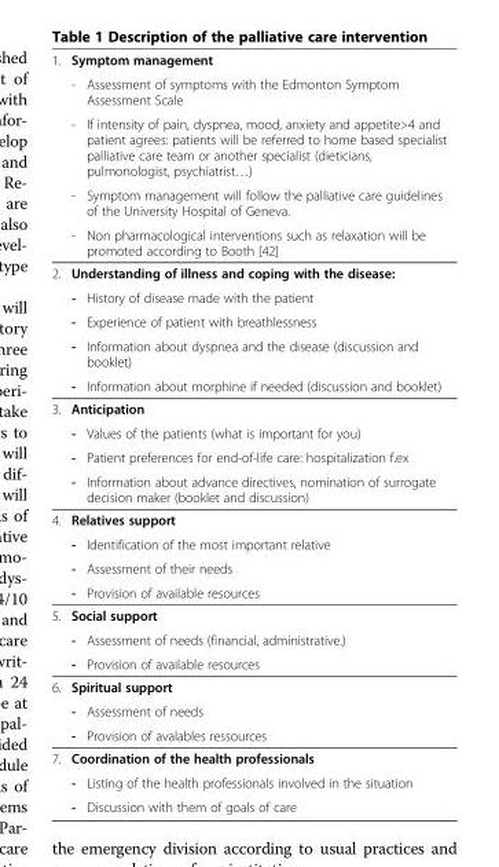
<table><tbody><tr><td rowspan="5">1.</td><td>Symptom management</td></tr><tr><td>- Assessment of symptoms with the Edmonton Symptom Assessment Scale</td></tr><tr><td>- If intensity of pain, dyspnea, mood, anxiety and appetite&gt;4 and patient agrees: patients will be referred to home based specialist palliative care team or another specialist (dieticians, pulmonologist, psychiatrist…)</td></tr><tr><td>- Symptom management will follow the palliative care guidelines of the University Hospital of Geneva.</td></tr><tr><td>- Non pharmacological interventions such as relaxation will be promoted according to Booth [42]</td></tr><tr><td rowspan="5">2.</td><td>Understanding of illness and coping with the disease:</td></tr><tr><td>- History of disease made with the patient</td></tr><tr><td>- Experience of patient with breathlessness</td></tr><tr><td>- Information about dyspnea and the disease (discussion and booklet)</td></tr><tr><td>- Information about morphine if needed (discussion and booklet)</td></tr><tr><td rowspan="4">3.</td><td>Anticipation</td></tr><tr><td>- Values of the patients (what is important for you)</td></tr><tr><td>- Patient preferences for end-of-life care: hospitalization f.ex</td></tr><tr><td>- Information about advance directives, nomination of surrogate decision maker (booklet and discussion)</td></tr><tr><td rowspan="4">4.</td><td>Relatives support</td></tr><tr><td>- Identification of the most important relative</td></tr><tr><td>- Assessment of their needs</td></tr><tr><td>- Provision of available resources</td></tr><tr><td rowspan="3">5.</td><td>Social support</td></tr><tr><td>- Assessment of needs (financial, administrative.)</td></tr><tr><td>- Provision of available resources</td></tr><tr><td rowspan="3">6.</td><td>Spiritual support</td></tr><tr><td>- Assessment of needs</td></tr><tr><td>- Provision of avalables ressources</td></tr><tr><td rowspan="3">7.</td><td>Coordination of the health professionals</td></tr><tr><td>- Listing of the health professionals involved in the situation</td></tr><tr><td>- Discussion with them of goals of care</td></tr></tbody></table>